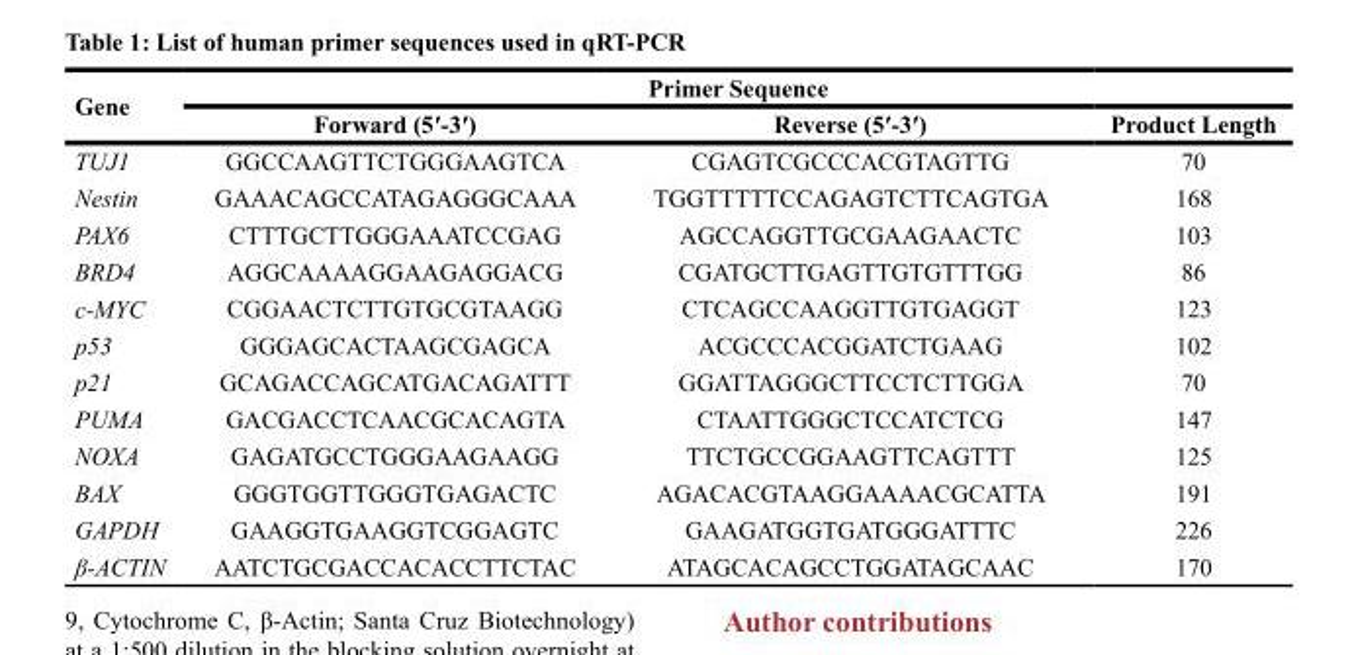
<table><thead><tr><td rowspan="2">Gene</td><td colspan="3">Primer Sequence</td></tr><tr><td>Forward (5′-3′)</td><td>Reverse (5′-3′)</td><td>Product Length</td></tr></thead><tbody><tr><td>TUJ1</td><td>GGCCAAGTTCTGGGAAGTCA</td><td>CGAGTCGCCCACGTAGTTG</td><td>70</td></tr><tr><td>Nestin</td><td>GAAACAGCCATAGAGGGCAAA</td><td>TGGTTTTTCCAGAGTCTTCAGTGA</td><td>168</td></tr><tr><td>PAX6</td><td>CTTTGCTTGGGAAATCCGAG</td><td>AGCCAGGTTGCGAAGAACTC</td><td>103</td></tr><tr><td>BRD4</td><td>AGGCAAAAGGAAGAGGACG</td><td>CGATGCTTGAGTTGTGTTTGG</td><td>86</td></tr><tr><td>c-MYC</td><td>CGGAACTCTTGTGCGTAAGG</td><td>CTCAGCCAAGGTTGTGAGGT</td><td>123</td></tr><tr><td>p53</td><td>GGGAGCACTAAGCGAGCA</td><td>ACGCCCACGGATCTGAAG</td><td>102</td></tr><tr><td>p21</td><td>GCAGACCAGCATGACAGATTT</td><td>GGATTAGGGCTTCCTCTTGGA</td><td>70</td></tr><tr><td>PUMA</td><td>GACGACCTCAACGCACAGTA</td><td>CTAATTGGGCTCCATCTCG</td><td>147</td></tr><tr><td>NOXA</td><td>GAGATGCCTGGGAAGAAGG</td><td>TTCTGCCGGAAGTTCAGTTT</td><td>125</td></tr><tr><td>BAX</td><td>GGGTGGTTGGGTGAGACTC</td><td>AGACACGTAAGGAAAACGCATTA</td><td>191</td></tr><tr><td>GAPDH</td><td>GAAGGTGAAGGTCGGAGTC</td><td>GAAGATGGTGATGGGATTTC</td><td>226</td></tr><tr><td>β-ACTIN</td><td>AATCTGCGACCACACCTTCTAC</td><td>ATAGCACAGCCTGGATAGCAAC</td><td>170</td></tr></tbody></table>